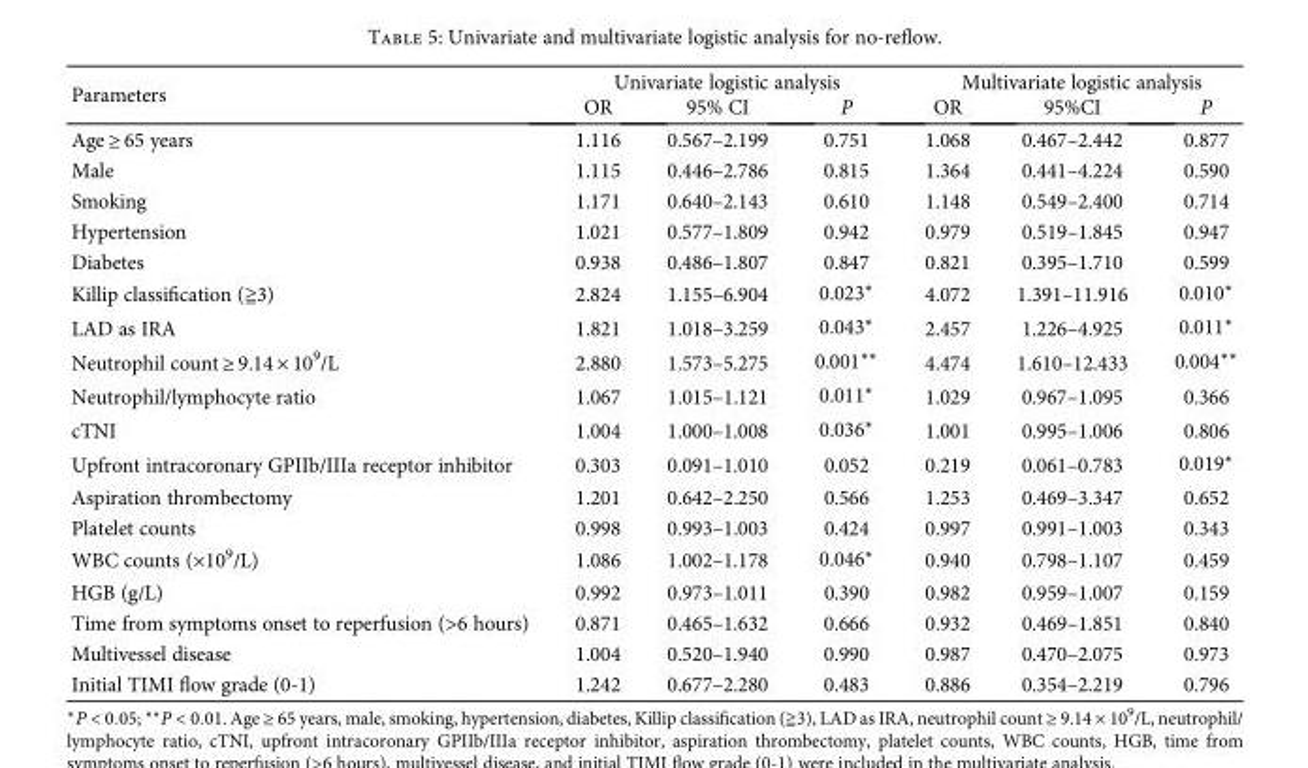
<table><thead><tr><td rowspan="2">Parameters</td><td colspan="3">Univariate logistic analysis</td><td colspan="3">Multivariate logistic analysis</td></tr><tr><td>OR</td><td>95% CI</td><td>P</td><td>OR</td><td>95%CI</td><td>P</td></tr></thead><tbody><tr><td>Age ≥ 65 years</td><td>1.116</td><td>0.567–2.199</td><td>0.751</td><td>1.068</td><td>0.467–2.442</td><td>0.877</td></tr><tr><td>Male</td><td>1.115</td><td>0.446–2.786</td><td>0.815</td><td>1.364</td><td>0.441–4.224</td><td>0.590</td></tr><tr><td>Smoking</td><td>1.171</td><td>0.640–2.143</td><td>0.610</td><td>1.148</td><td>0.549–2.400</td><td>0.714</td></tr><tr><td>Hypertension</td><td>1.021</td><td>0.577–1.809</td><td>0.942</td><td>0.979</td><td>0.519–1.845</td><td>0.947</td></tr><tr><td>Diabetes</td><td>0.938</td><td>0.486–1.807</td><td>0.847</td><td>0.821</td><td>0.395–1.710</td><td>0.599</td></tr><tr><td>Killip classification (≧3)</td><td>2.824</td><td>1.155–6.904</td><td>0.023∗</td><td>4.072</td><td>1.391–11.916</td><td>0.010∗</td></tr><tr><td>LAD as IRA</td><td>1.821</td><td>1.018–3.259</td><td>0.043∗</td><td>2.457</td><td>1.226–4.925</td><td>0.011∗</td></tr><tr><td>Neutrophil count ≥ 9.14 × 10<sup>9</sup>/L</td><td>2.880</td><td>1.573–5.275</td><td>0.001∗∗</td><td>4.474</td><td>1.610–12.433</td><td>0.004∗∗</td></tr><tr><td>Neutrophil/lymphocyte ratio</td><td>1.067</td><td>1.015–1.121</td><td>0.011∗</td><td>1.029</td><td>0.967–1.095</td><td>0.366</td></tr><tr><td>cTNI</td><td>1.004</td><td>1.000–1.008</td><td>0.036∗</td><td>1.001</td><td>0.995–1.006</td><td>0.806</td></tr><tr><td>Upfront intracoronary GPIIb/IIIa receptor inhibitor</td><td>0.303</td><td>0.091–1.010</td><td>0.052</td><td>0.219</td><td>0.061–0.783</td><td>0.019∗</td></tr><tr><td>Aspiration thrombectomy</td><td>1.201</td><td>0.642–2.250</td><td>0.566</td><td>1.253</td><td>0.469–3.347</td><td>0.652</td></tr><tr><td>Platelet counts</td><td>0.998</td><td>0.993–1.003</td><td>0.424</td><td>0.997</td><td>0.991–1.003</td><td>0.343</td></tr><tr><td>WBC counts (×10<sup>9</sup>/L)</td><td>1.086</td><td>1.002–1.178</td><td>0.046∗</td><td>0.940</td><td>0.798–1.107</td><td>0.459</td></tr><tr><td>HGB (g/L)</td><td>0.992</td><td>0.973–1.011</td><td>0.390</td><td>0.982</td><td>0.959–1.007</td><td>0.159</td></tr><tr><td>Time from symptoms onset to reperfusion (&gt;6 hours)</td><td>0.871</td><td>0.465–1.632</td><td>0.666</td><td>0.932</td><td>0.469–1.851</td><td>0.840</td></tr><tr><td>Multivessel disease</td><td>1.004</td><td>0.520–1.940</td><td>0.990</td><td>0.987</td><td>0.470–2.075</td><td>0.973</td></tr><tr><td>Initial TIMI flow grade (0-1)</td><td>1.242</td><td>0.677–2.280</td><td>0.483</td><td>0.886</td><td>0.354–2.219</td><td>0.796</td></tr></tbody></table>